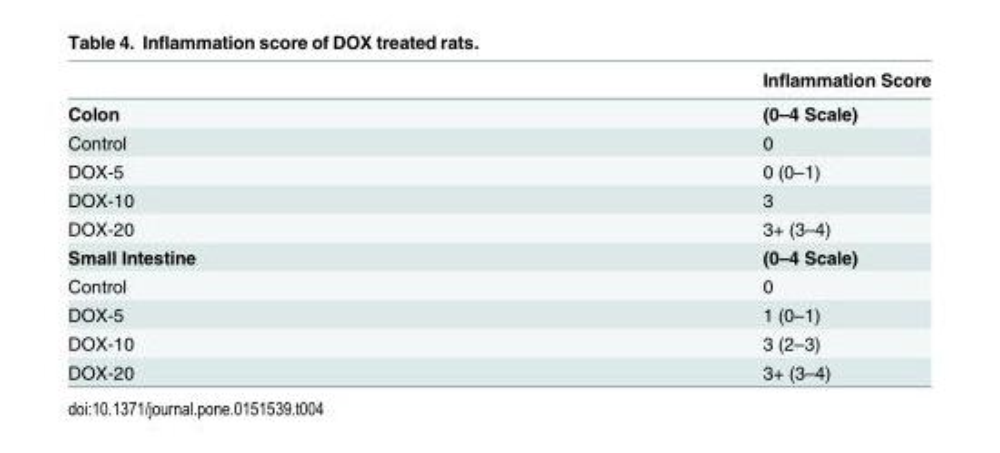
<table><thead><tr><td></td><td>Inflammation Score</td></tr></thead><tbody><tr><td>Colon</td><td>(0–4 Scale)</td></tr><tr><td>Control</td><td>0</td></tr><tr><td>DOX-5</td><td>0 (0–1)</td></tr><tr><td>DOX-10</td><td>3</td></tr><tr><td>DOX-20</td><td>3+ (3–4)</td></tr><tr><td>Small Intestine</td><td>(0–4 Scale)</td></tr><tr><td>Control</td><td>0</td></tr><tr><td>DOX-5</td><td>1 (0–1)</td></tr><tr><td>DOX-10</td><td>3 (2–3)</td></tr><tr><td>DOX-20</td><td>3+ (3–4)</td></tr></tbody></table>